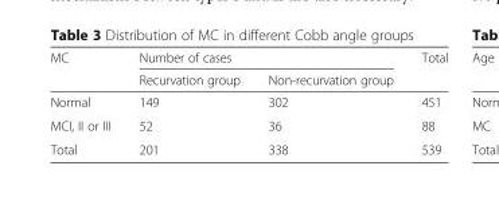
<table><thead><tr><td rowspan="2">MC</td><td colspan="2">Number of cases</td><td rowspan="2">Total</td></tr><tr><td>Recurvation group</td><td>Non-recurvation group</td></tr></thead><tbody><tr><td>Normal</td><td>149</td><td>302</td><td>451</td></tr><tr><td>MCI, II or III</td><td>52</td><td>36</td><td>88</td></tr><tr><td>Total</td><td>201</td><td>338</td><td>539</td></tr></tbody></table>